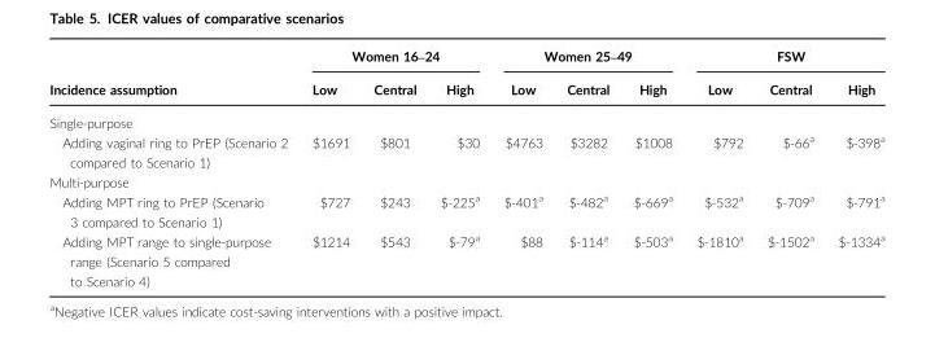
<table><thead><tr><td rowspan="2">Incidence assumption</td><td colspan="3">Women 16–24</td><td colspan="3">Women 25–49</td><td colspan="3">FSW</td></tr><tr><td>Low</td><td>Central</td><td>High</td><td>Low</td><td>Central</td><td>High</td><td>Low</td><td>Central</td><td>High</td></tr></thead><tbody><tr><td colspan="10">Single-purpose</td></tr><tr><td>Adding vaginal ring to PrEP (Scenario 2 compared to Scenario 1)</td><td>$1691</td><td>$801</td><td>$30</td><td>$4763</td><td>$3282</td><td>$1008</td><td>$792</td><td>$-66<sup>a</sup></td><td>$-398<sup>a</sup></td></tr><tr><td colspan="10">Multi-purpose</td></tr><tr><td>Adding MPT ring to PrEP (Scenario 3 compared to Scenario 1)</td><td>$727</td><td>$243</td><td>$-225<sup>a</sup></td><td>$-401<sup>a</sup></td><td>$-482<sup>a</sup></td><td>$-669<sup>a</sup></td><td>$-532<sup>a</sup></td><td>$-709<sup>a</sup></td><td>$-791<sup>a</sup></td></tr><tr><td>Adding MPT range to single-purpose range (Scenario 5 compared to Scenario 4)</td><td>$1214</td><td>$543</td><td>$-79<sup>a</sup></td><td>$88</td><td>$-114<sup>a</sup></td><td>$-503<sup>a</sup></td><td>$-1810<sup>a</sup></td><td>$-1502<sup>a</sup></td><td>$-1334<sup>a</sup></td></tr></tbody></table>